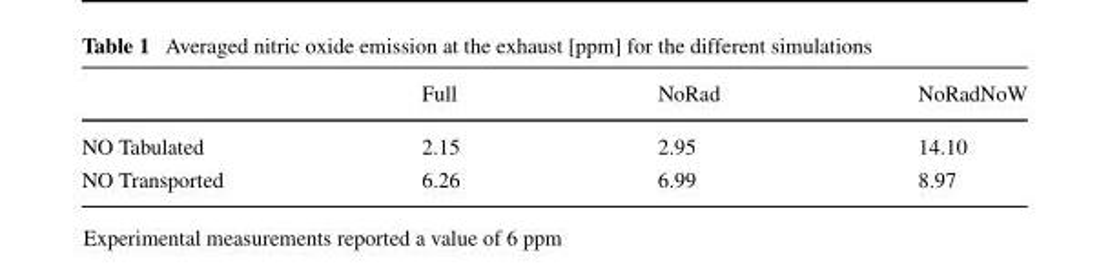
<table><thead><tr><td></td><td>Full</td><td>NoRad</td><td>NoRadNoW</td></tr></thead><tbody><tr><td>NO Tabulated</td><td>2.15</td><td>2.95</td><td>14.10</td></tr><tr><td>NO Transported</td><td>6.26</td><td>6.99</td><td>8.97</td></tr></tbody></table>